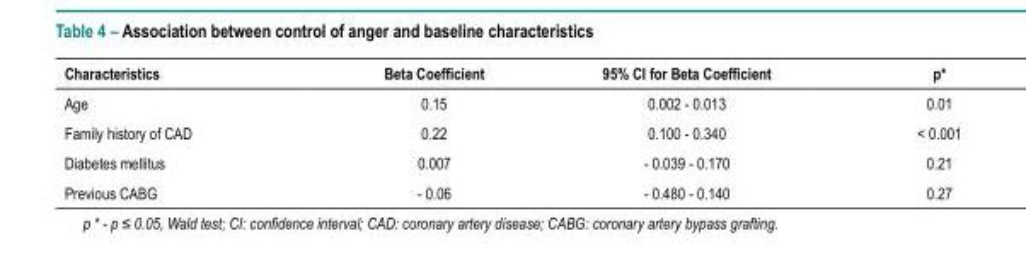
<table><thead><tr><td>Characteristics</td><td>Beta Coefficient</td><td>95% CI for Beta Coefficient</td><td>p*</td></tr></thead><tbody><tr><td>Age</td><td>0.15</td><td>0.002 - 0.013</td><td>0.01</td></tr><tr><td>Family history of CAD</td><td>0.22</td><td>0.100 - 0.340</td><td>&lt; 0.001</td></tr><tr><td>Diabetes mellitus</td><td>0.007</td><td>- 0.039 - 0.170</td><td>0.21</td></tr><tr><td>Previous CABG</td><td>- 0.06</td><td>- 0.480 - 0.140</td><td>0.27</td></tr></tbody></table>